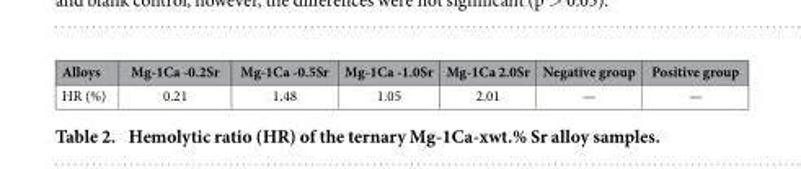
<table><thead><tr><td>Alloys</td><td>Mg-1Ca -0.2Sr</td><td>Mg-1Ca -0.5Sr</td><td>Mg-1Ca -1.0Sr</td><td>Mg-1Ca 2.0Sr</td><td>Negative group</td><td>Positive group</td></tr></thead><tbody><tr><td>HR (%)</td><td>0.21</td><td>1.48</td><td>1.05</td><td>2.01</td><td>—</td><td>—</td></tr></tbody></table>